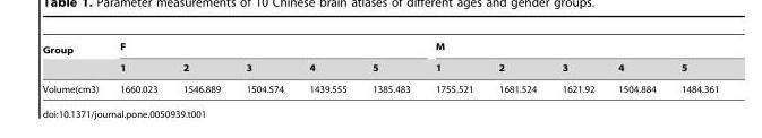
<table><thead><tr><td rowspan="2">Group</td><td colspan="5">F</td><td colspan="5">M</td></tr><tr><td>1</td><td>2</td><td>3</td><td>4</td><td>5</td><td>1</td><td>2</td><td>3</td><td>4</td><td>5</td></tr></thead><tbody><tr><td>Volume(cm3)</td><td>1660.023</td><td>1546.889</td><td>1504.574</td><td>1439.555</td><td>1385.483</td><td>1755.521</td><td>1681.524</td><td>1621.92</td><td>1504.884</td><td>1484.361</td></tr></tbody></table>